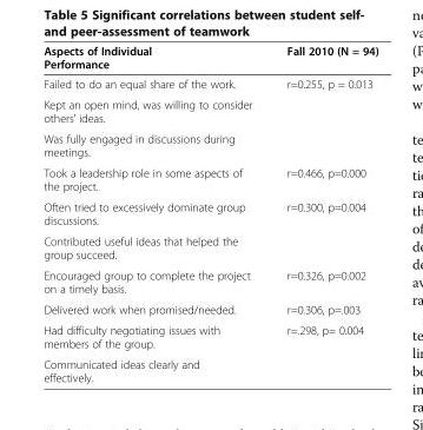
<table><thead><tr><td>Aspects of Individual Performance</td><td>Fall 2010 (N = 94)</td></tr></thead><tbody><tr><td>Failed to do an equal share of the work.</td><td>r=0.255, p = 0.013</td></tr><tr><td colspan="2">Kept an open mind, was willing to consider others’ ideas.</td></tr><tr><td colspan="2">Was fully engaged in discussions during meetings.</td></tr><tr><td>Took a leadership role in some aspects of the project.</td><td>r=0.466, p=0.000</td></tr><tr><td>Often tried to excessively dominate group discussions.</td><td>r=0.300, p=0.004</td></tr><tr><td colspan="2">Contributed useful ideas that helped the group succeed.</td></tr><tr><td>Encouraged group to complete the project on a timely basis.</td><td>r=0.326, p=0.002</td></tr><tr><td>Delivered work when promised/needed.</td><td>r=0.306, p=.003</td></tr><tr><td>Had difficulty negotiating issues with members of the group.</td><td>r=.298, p= 0.004</td></tr><tr><td>Communicated ideas clearly and effectively.</td><td></td></tr></tbody></table>